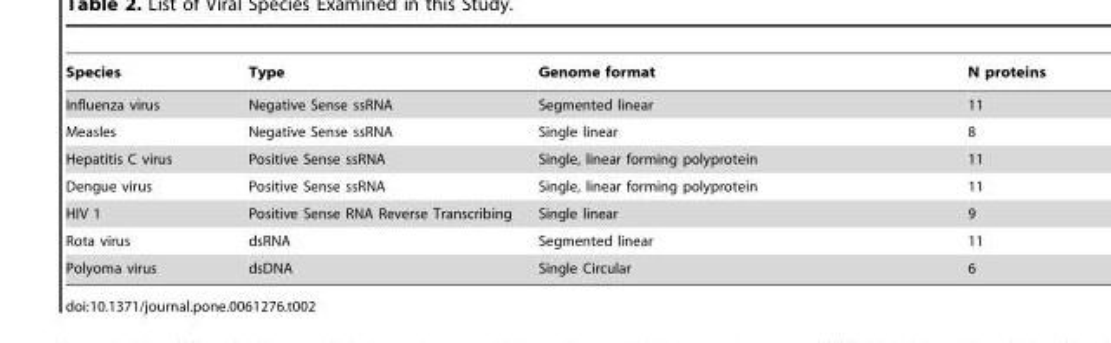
<table><thead><tr><td>Species</td><td>Type</td><td>Genome format</td><td>N proteins</td></tr></thead><tbody><tr><td>Influenza virus</td><td>Negative Sense ssRNA</td><td>Segmented linear</td><td>11</td></tr><tr><td>Measles</td><td>Negative Sense ssRNA</td><td>Single linear</td><td>8</td></tr><tr><td>Hepatitis C virus</td><td>Positive Sense ssRNA</td><td>Single, linear forming polyprotein</td><td>11</td></tr><tr><td>Dengue virus</td><td>Positive Sense ssRNA</td><td>Single, linear forming polyprotein</td><td>11</td></tr><tr><td>HIV 1</td><td>Positive Sense RNA Reverse Transcribing</td><td>Single linear</td><td>9</td></tr><tr><td>Rota virus</td><td>dsRNA</td><td>Segmented linear</td><td>11</td></tr><tr><td>Polyoma virus</td><td>dsDNA</td><td>Single Circular</td><td>6</td></tr></tbody></table>